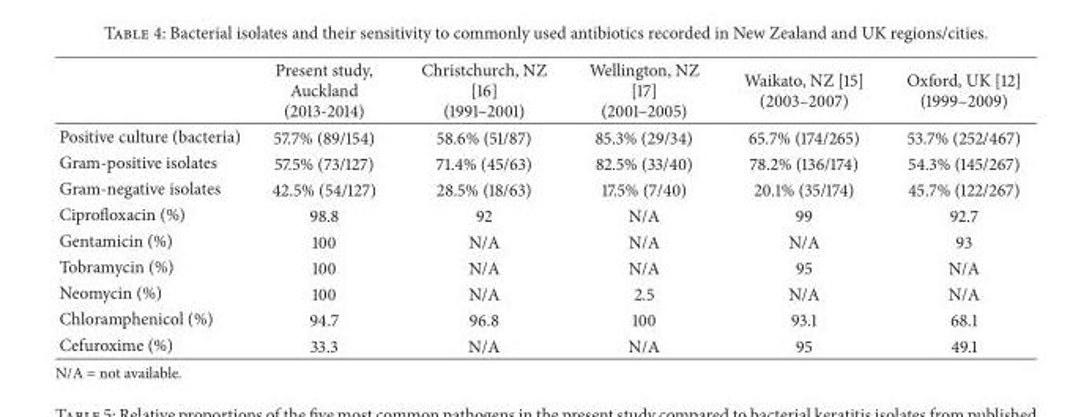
<table><thead><tr><td></td><td>Present study, Auckland (2013-2014)</td><td>Christchurch, NZ [16] (1991–2001)</td><td>Wellington, NZ [17] (2001–2005)</td><td>Waikato, NZ [15] (2003–2007)</td><td>Oxford, UK [12] (1999–2009)</td></tr></thead><tbody><tr><td>Positive culture (bacteria)</td><td>57.7% (89/154)</td><td>58.6% (51/87)</td><td>85.3% (29/34)</td><td>65.7% (174/265)</td><td>53.7% (252/467)</td></tr><tr><td>Gram-positive isolates</td><td>57.5% (73/127)</td><td>71.4% (45/63)</td><td>82.5% (33/40)</td><td>78.2% (136/174)</td><td>54.3% (145/267)</td></tr><tr><td>Gram-negative isolates</td><td>42.5% (54/127)</td><td>28.5% (18/63)</td><td>17.5% (7/40)</td><td>20.1% (35/174)</td><td>45.7% (122/267)</td></tr><tr><td>Ciprofloxacin (%)</td><td>98.8</td><td>92</td><td>N/A</td><td>99</td><td>92.7</td></tr><tr><td>Gentamicin (%)</td><td>100</td><td>N/A</td><td>N/A</td><td>N/A</td><td>93</td></tr><tr><td>Tobramycin (%)</td><td>100</td><td>N/A</td><td>N/A</td><td>95</td><td>N/A</td></tr><tr><td>Neomycin (%)</td><td>100</td><td>N/A</td><td>2.5</td><td>N/A</td><td>N/A</td></tr><tr><td>Chloramphenicol (%)</td><td>94.7</td><td>96.8</td><td>100</td><td>93.1</td><td>68.1</td></tr><tr><td>Cefuroxime (%)</td><td>33.3</td><td>N/A</td><td>N/A</td><td>95</td><td>49.1</td></tr></tbody></table>